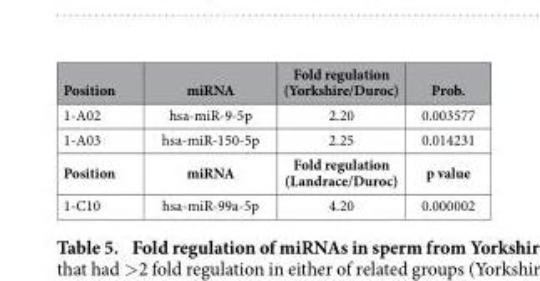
<table><thead><tr><td>Position</td><td>miRNA</td><td>Fold regulation (Yorkshire/Duroc)</td><td>Prob.</td></tr></thead><tbody><tr><td>1-A02</td><td>hsa-miR-9-5p</td><td>2.20</td><td>0.003577</td></tr><tr><td>1-A03</td><td>hsa-miR-150-5p</td><td>2.25</td><td>0.014231</td></tr><tr><td>Position</td><td>miRNA</td><td>Fold regulation (Landrace/Duroc)</td><td>p value</td></tr><tr><td>1-C10</td><td>hsa-miR-99a-5p</td><td>4.20</td><td>0.000002</td></tr></tbody></table>